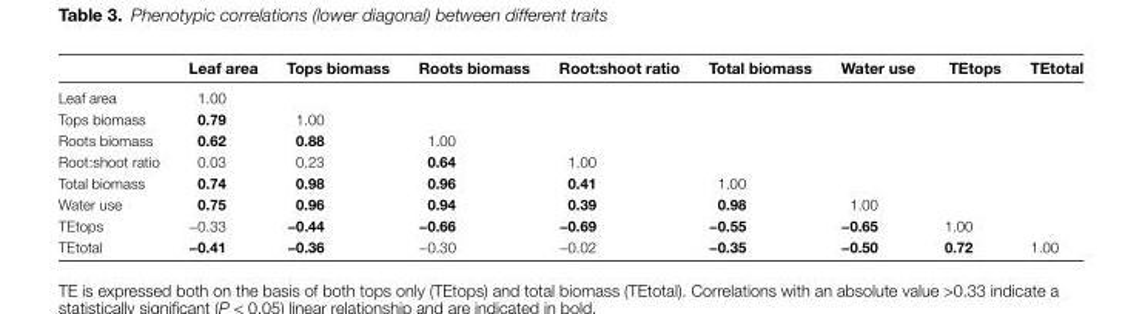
<table><thead><tr><td></td><td>Leaf area</td><td>Tops biomass</td><td>Roots biomass</td><td>Root:shoot ratio</td><td>Total biomass</td><td>Water use</td><td>TEtops</td><td>TEtotal</td></tr></thead><tbody><tr><td>Leaf area</td><td>1.00</td><td></td><td></td><td></td><td></td><td></td><td></td><td></td></tr><tr><td>Tops biomass</td><td>0.79</td><td>1.00</td><td></td><td></td><td></td><td></td><td></td><td></td></tr><tr><td>Roots biomass</td><td>0.62</td><td>0.88</td><td>1.00</td><td></td><td></td><td></td><td></td><td></td></tr><tr><td>Root:shoot ratio</td><td>0.03</td><td>0.23</td><td>0.64</td><td>1.00</td><td></td><td></td><td></td><td></td></tr><tr><td>Total biomass</td><td>0.74</td><td>0.98</td><td>0.96</td><td>0.41</td><td>1.00</td><td></td><td></td><td></td></tr><tr><td>Water use</td><td>0.75</td><td>0.96</td><td>0.94</td><td>0.39</td><td>0.98</td><td>1.00</td><td></td><td></td></tr><tr><td>TEtops</td><td>−0.33</td><td>−0.44</td><td>−0.66</td><td>−0.69</td><td>−0.55</td><td>−0.65</td><td>1.00</td><td></td></tr><tr><td>TEtotal</td><td>−0.41</td><td>−0.36</td><td>−0.30</td><td>−0.02</td><td>−0.35</td><td>−0.50</td><td>0.72</td><td>1.00</td></tr></tbody></table>